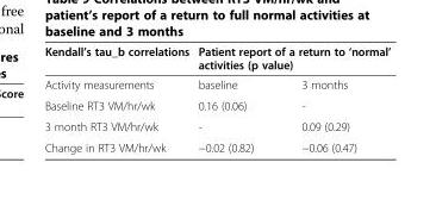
<table><thead><tr><td rowspan="2">Kendall’s tau_b correlations Activity measurements</td><td colspan="2">Patient report of a return to ‘normal’ activities (p value)</td></tr><tr><td>baseline</td><td>3 months</td></tr></thead><tbody><tr><td>Baseline RT3 VM/hr/wk</td><td>0.16 (0.06)</td><td>-</td></tr><tr><td>3 month RT3 VM/hr/wk</td><td>-</td><td>0.09 (0.29)</td></tr><tr><td>Change in RT3 VM/hr/wk</td><td>−0.02 (0.82)</td><td>−0.06 (0.47)</td></tr></tbody></table>